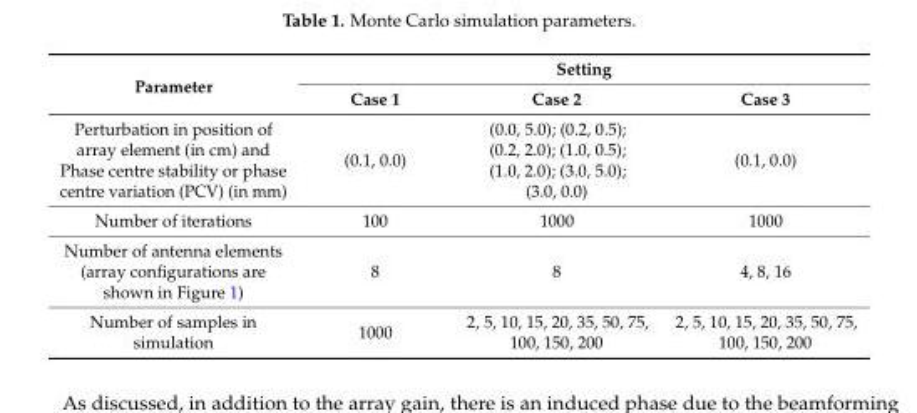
<table><thead><tr><td rowspan="2">Parameter</td><td colspan="3">Setting</td></tr><tr><td>Case 1</td><td>Case 2</td><td>Case 3</td></tr></thead><tbody><tr><td>Perturbation in position of array element (in cm) and Phase centre stability or phase centre variation (PCV) (in mm)</td><td>(0.1, 0.0)</td><td>(0.0, 5.0); (0.2, 0.5); (0.2, 2.0); (1.0, 0.5); (1.0, 2.0); (3.0, 5.0); (3.0, 0.0)</td><td>(0.1, 0.0)</td></tr><tr><td>Number of iterations</td><td>100</td><td>1000</td><td>1000</td></tr><tr><td>Number of antenna elements (array configurations are shown in Figure 1)</td><td>8</td><td>8</td><td>4, 8, 16</td></tr><tr><td>Number of samples in simulation</td><td>1000</td><td>2, 5, 10, 15, 20, 35, 50, 75, 100, 150, 200</td><td>2, 5, 10, 15, 20, 35, 50, 75, 100, 150, 200</td></tr></tbody></table>